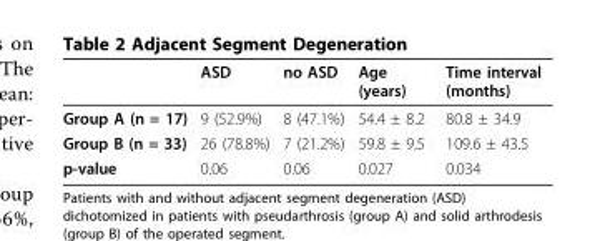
<table><thead><tr><td></td><td>ASD</td><td>no ASD</td><td>Age (years)</td><td>Time interval (months)</td></tr></thead><tbody><tr><td>Group A (n = 17)</td><td>9 (52.9%)</td><td>8 (47.1%)</td><td>54.4 ± 8.2</td><td>80.8 ± 34.9</td></tr><tr><td>Group B (n = 33)</td><td>26 (78.8%)</td><td>7 (21.2%)</td><td>59.8 ± 9.5</td><td>109.6 ± 43.5</td></tr><tr><td>p-value</td><td>0.06</td><td>0.06</td><td>0.027</td><td>0.034</td></tr></tbody></table>